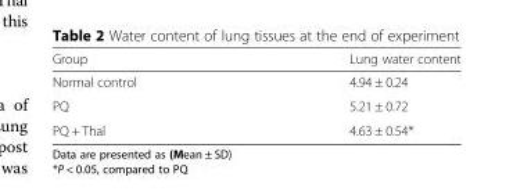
<table><thead><tr><td>Group</td><td>Lung water content</td></tr></thead><tbody><tr><td>Normal control</td><td>4.94 ± 0.24</td></tr><tr><td>PQ</td><td>5.21 ± 0.72</td></tr><tr><td>PQ + Thal</td><td>4.63 ± 0.54*</td></tr></tbody></table>